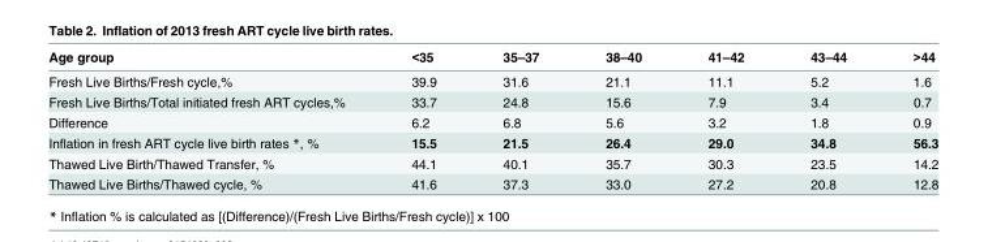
<table><thead><tr><td>Age group</td><td>&lt;35</td><td>35–37</td><td>38–40</td><td>41–42</td><td>43–44</td><td>&gt;44</td></tr></thead><tbody><tr><td>Fresh Live Births/Fresh cycle,%</td><td>39.9</td><td>31.6</td><td>21.1</td><td>11.1</td><td>5.2</td><td>1.6</td></tr><tr><td>Fresh Live Births/Total initiated fresh ART cycles,%</td><td>33.7</td><td>24.8</td><td>15.6</td><td>7.9</td><td>3.4</td><td>0.7</td></tr><tr><td>Difference</td><td>6.2</td><td>6.8</td><td>5.6</td><td>3.2</td><td>1.8</td><td>0.9</td></tr><tr><td>Inflation in fresh ART cycle live birth rates *, %</td><td>15.5</td><td>21.5</td><td>26.4</td><td>29.0</td><td>34.8</td><td>56.3</td></tr><tr><td>Thawed Live Birth/Thawed Transfer, %</td><td>44.1</td><td>40.1</td><td>35.7</td><td>30.3</td><td>23.5</td><td>14.2</td></tr><tr><td>Thawed Live Births/Thawed cycle, %</td><td>41.6</td><td>37.3</td><td>33.0</td><td>27.2</td><td>20.8</td><td>12.8</td></tr></tbody></table>